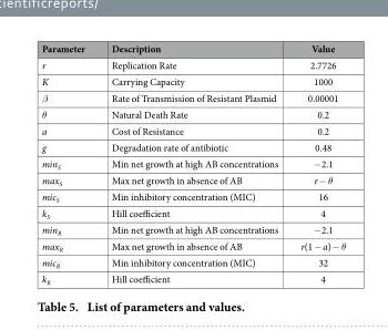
<table><thead><tr><td>Parameter</td><td>Description</td><td>Value</td></tr></thead><tbody><tr><td>r</td><td>Replication Rate</td><td>2.7726</td></tr><tr><td>K</td><td>Carrying Capacity</td><td>1000</td></tr><tr><td>β</td><td>Rate of Transmission of Resistant Plasmid</td><td>0.00001</td></tr><tr><td>θ</td><td>Natural Death Rate</td><td>0.2</td></tr><tr><td>a</td><td>Cost of Resistance</td><td>0.2</td></tr><tr><td>g</td><td>Degradation rate of antibiotic</td><td>0.48</td></tr><tr><td>min<sub>S</sub></td><td>Min net growth at high AB concentrations</td><td>− 2.1</td></tr><tr><td>max<sub>S</sub></td><td>Max net growth in absence of AB</td><td>r − θ</td></tr><tr><td>mic<sub>S</sub></td><td>Min inhibitory concentration (MIC)</td><td>16</td></tr><tr><td>k<sub>S</sub></td><td>Hill coefficient</td><td>4</td></tr><tr><td>min<sub>R</sub></td><td>Min net growth at high AB concentrations</td><td>− 2.1</td></tr><tr><td>max<sub>R</sub></td><td>Max net growth in absence of AB</td><td>r(1 − a) − θ</td></tr><tr><td>mic<sub>R</sub></td><td>Min inhibitory concentration (MIC)</td><td>32</td></tr><tr><td>k<sub>R</sub></td><td>Hill coefficient</td><td>4</td></tr></tbody></table>